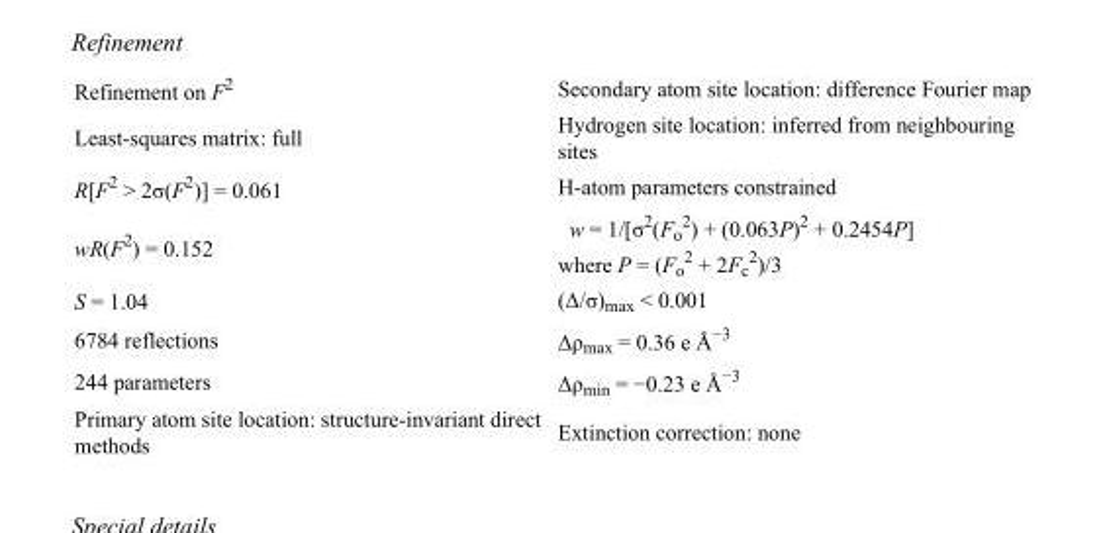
<table><tbody><tr><td>Refinement on F<sup>2</sup></td><td>Secondary atom site location: difference Fourier map</td></tr><tr><td>Least-squares matrix: full</td><td>Hydrogen site location: inferred from neighbouring sites</td></tr><tr><td>R[F<sup>2</sup> &gt; 2σ(F<sup>2</sup>)] = 0.061</td><td>H-atom parameters constrained</td></tr><tr><td>wR(F<sup>2</sup>) = 0.152</td><td>w = 1/[σ<sup>2</sup>(F<sub>o</sub> <sup>2</sup>) + (0.063P)<sup>2</sup> + 0.2454P] where P = (F<sub>o</sub> <sup>2</sup> + 2F<sub>c</sub> <sup>2</sup>)/3</td></tr><tr><td>S = 1.04</td><td>(Δ/σ)<sub>max</sub> &lt; 0.001</td></tr><tr><td>6784 reflections</td><td>Δρ<sub>max</sub> = 0.36 e Å<sup>−3</sup></td></tr><tr><td>244 parameters</td><td>Δρ<sub>min</sub> = −0.23 e Å<sup>−3</sup></td></tr><tr><td>Primary atom site location: structure-invariant direct methods</td><td>Extinction correction: none</td></tr></tbody></table>